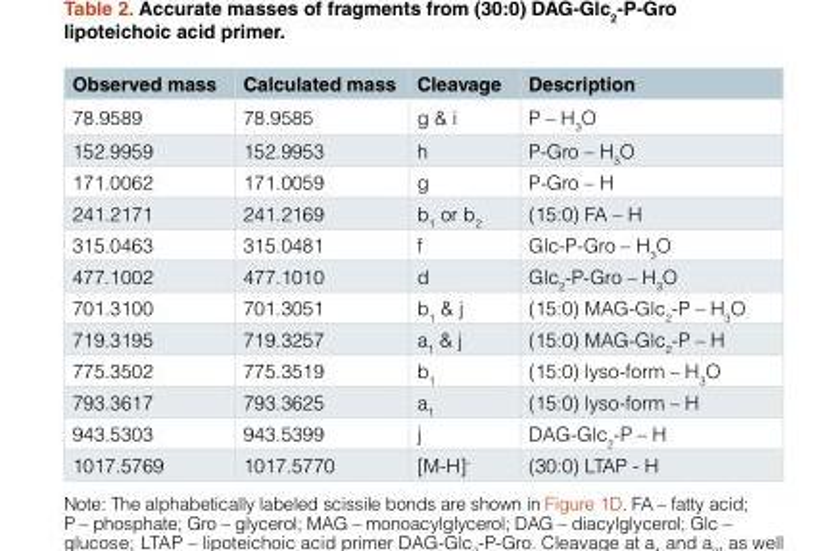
<table><thead><tr><td>Observed mass</td><td>Calculated mass</td><td>Cleavage</td><td>Description</td></tr></thead><tbody><tr><td>78.9589</td><td>78.9585</td><td>g &amp; i</td><td>P – H<sub>3</sub>O</td></tr><tr><td>152.9959</td><td>152.9953</td><td>h</td><td>P-Gro – H<sub>3</sub>O</td></tr><tr><td>171.0062</td><td>171.0059</td><td>g</td><td>P-Gro – H</td></tr><tr><td>241.2171</td><td>241.2169</td><td>b<sub>1</sub> or b<sub>2</sub></td><td>(15:0) FA – H</td></tr><tr><td>315.0463</td><td>315.0481</td><td>f</td><td>Glc-P-Gro – H<sub>3</sub>O</td></tr><tr><td>477.1002</td><td>477.1010</td><td>d</td><td>Glc<sub>2</sub>-P-Gro – H<sub>3</sub>O</td></tr><tr><td>701.3100</td><td>701.3051</td><td>b<sub>1</sub> &amp; j</td><td>(15:0) MAG-Glc<sub>2</sub>-P – H<sub>3</sub>O</td></tr><tr><td>719.3195</td><td>719.3257</td><td>a<sub>1</sub> &amp; j</td><td>(15:0) MAG-Glc<sub>2</sub>-P – H</td></tr><tr><td>775.3502</td><td>775.3519</td><td>b<sub>1</sub></td><td>(15:0) lyso-form – H<sub>3</sub>O</td></tr><tr><td>793.3617</td><td>793.3625</td><td>a<sub>1</sub></td><td>(15:0) lyso-form – H</td></tr><tr><td>943.5303</td><td>943.5399</td><td>j</td><td>DAG-Glc<sub>2</sub>-P – H</td></tr><tr><td>1017.5769</td><td>1017.5770</td><td>[M-H]<sup>-</sup></td><td>(30:0) LTAP - H</td></tr></tbody></table>